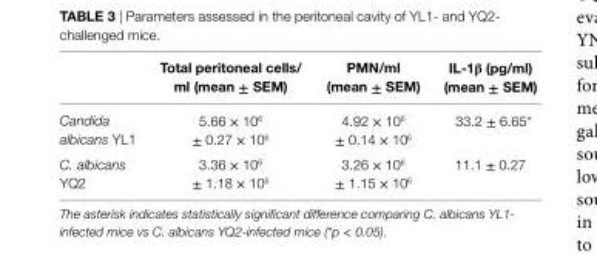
<table><thead><tr><td></td><td>Total peritoneal cells/ ml (mean ± seM)</td><td>PMn/ml (mean ± seM)</td><td>il-1β (pg/ml) (mean ± seM)</td></tr></thead><tbody><tr><td>Candida albicans YL1</td><td>5.66 × 10<sup>6</sup> ± 0.27 × 10<sup>6</sup></td><td>4.92 × 10<sup>6</sup> ± 0.14 × 10<sup>6</sup></td><td>33.2 ± 6.65*</td></tr><tr><td>C. albicans YQ2</td><td>3.36 × 10<sup>6</sup> ± 1.18 × 10<sup>6</sup></td><td>3.26 × 10<sup>6</sup> ± 1.15 × 10<sup>6</sup></td><td>11.1 ± 0.27</td></tr></tbody></table>